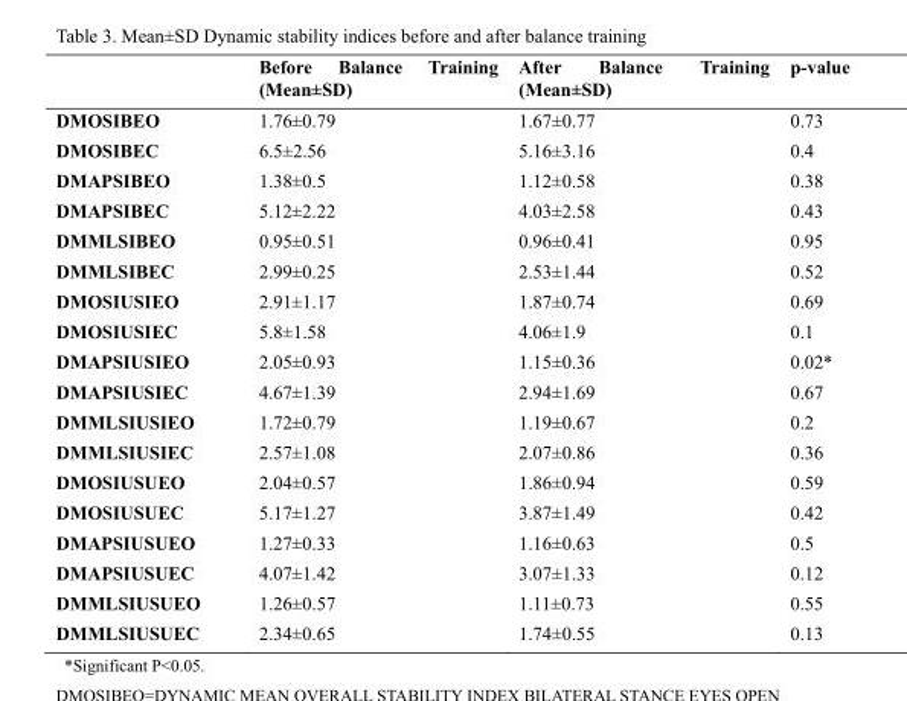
<table><thead><tr><td></td><td>Before Balance Training (Mean±SD)</td><td>After Balance Training (Mean±SD)</td><td>p-value</td></tr></thead><tbody><tr><td>DMOSIBEO</td><td>1.76±0.79</td><td>1.67±0.77</td><td>0.73</td></tr><tr><td>DMOSIBEC</td><td>6.5±2.56</td><td>5.16±3.16</td><td>0.4</td></tr><tr><td>DMAPSIBEO</td><td>1.38±0.5</td><td>1.12±0.58</td><td>0.38</td></tr><tr><td>DMAPSIBEC</td><td>5.12±2.22</td><td>4.03±2.58</td><td>0.43</td></tr><tr><td>DMMLSIBEO</td><td>0.95±0.51</td><td>0.96±0.41</td><td>0.95</td></tr><tr><td>DMMLSIBEC</td><td>2.99±0.25</td><td>2.53±1.44</td><td>0.52</td></tr><tr><td>DMOSIUSIEO</td><td>2.91±1.17</td><td>1.87±0.74</td><td>0.69</td></tr><tr><td>DMOSIUSIEC</td><td>5.8±1.58</td><td>4.06±1.9</td><td>0.1</td></tr><tr><td>DMAPSIUSIEO</td><td>2.05±0.93</td><td>1.15±0.36</td><td>0.02*</td></tr><tr><td>DMAPSIUSIEC</td><td>4.67±1.39</td><td>2.94±1.69</td><td>0.67</td></tr><tr><td>DMMLSIUSIEO</td><td>1.72±0.79</td><td>1.19±0.67</td><td>0.2</td></tr><tr><td>DMMLSIUSIEC</td><td>2.57±1.08</td><td>2.07±0.86</td><td>0.36</td></tr><tr><td>DMOSIUSUEO</td><td>2.04±0.57</td><td>1.86±0.94</td><td>0.59</td></tr><tr><td>DMOSIUSUEC</td><td>5.17±1.27</td><td>3.87±1.49</td><td>0.42</td></tr><tr><td>DMAPSIUSUEO</td><td>1.27±0.33</td><td>1.16±0.63</td><td>0.5</td></tr><tr><td>DMAPSIUSUEC</td><td>4.07±1.42</td><td>3.07±1.33</td><td>0.12</td></tr><tr><td>DMMLSIUSUEO</td><td>1.26±0.57</td><td>1.11±0.73</td><td>0.55</td></tr><tr><td>DMMLSIUSUEC</td><td>2.34±0.65</td><td>1.74±0.55</td><td>0.13</td></tr></tbody></table>